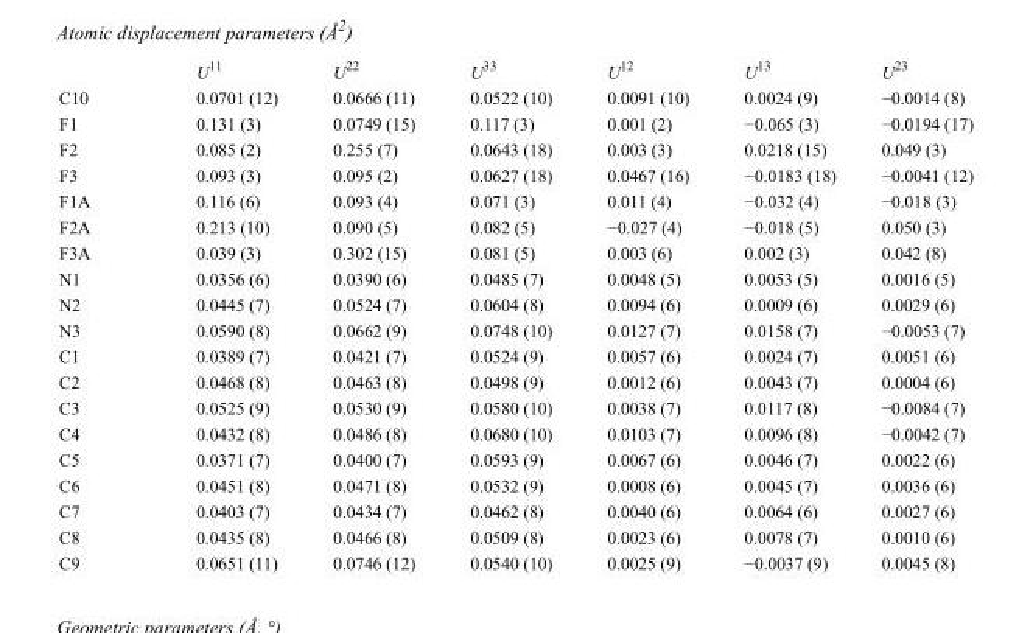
<table><thead><tr><td></td><td>U<sup>11</sup></td><td>U<sup>22</sup></td><td>U<sup>33</sup></td><td>U<sup>12</sup></td><td>U<sup>13</sup></td><td>U<sup>23</sup></td></tr></thead><tbody><tr><td>C10</td><td>0.0701 (12)</td><td>0.0666 (11)</td><td>0.0522 (10)</td><td>0.0091 (10)</td><td>0.0024 (9)</td><td>−0.0014 (8)</td></tr><tr><td>F1</td><td>0.131 (3)</td><td>0.0749 (15)</td><td>0.117 (3)</td><td>0.001 (2)</td><td>−0.065 (3)</td><td>−0.0194 (17)</td></tr><tr><td>F2</td><td>0.085 (2)</td><td>0.255 (7)</td><td>0.0643 (18)</td><td>0.003 (3)</td><td>0.0218 (15)</td><td>0.049 (3)</td></tr><tr><td>F3</td><td>0.093 (3)</td><td>0.095 (2)</td><td>0.0627 (18)</td><td>0.0467 (16)</td><td>−0.0183 (18)</td><td>−0.0041 (12)</td></tr><tr><td>F1A</td><td>0.116 (6)</td><td>0.093 (4)</td><td>0.071 (3)</td><td>0.011 (4)</td><td>−0.032 (4)</td><td>−0.018 (3)</td></tr><tr><td>F2A</td><td>0.213 (10)</td><td>0.090 (5)</td><td>0.082 (5)</td><td>−0.027 (4)</td><td>−0.018 (5)</td><td>0.050 (3)</td></tr><tr><td>F3A</td><td>0.039 (3)</td><td>0.302 (15)</td><td>0.081 (5)</td><td>0.003 (6)</td><td>0.002 (3)</td><td>0.042 (8)</td></tr><tr><td>N1</td><td>0.0356 (6)</td><td>0.0390 (6)</td><td>0.0485 (7)</td><td>0.0048 (5)</td><td>0.0053 (5)</td><td>0.0016 (5)</td></tr><tr><td>N2</td><td>0.0445 (7)</td><td>0.0524 (7)</td><td>0.0604 (8)</td><td>0.0094 (6)</td><td>0.0009 (6)</td><td>0.0029 (6)</td></tr><tr><td>N3</td><td>0.0590 (8)</td><td>0.0662 (9)</td><td>0.0748 (10)</td><td>0.0127 (7)</td><td>0.0158 (7)</td><td>−0.0053 (7)</td></tr><tr><td>C1</td><td>0.0389 (7)</td><td>0.0421 (7)</td><td>0.0524 (9)</td><td>0.0057 (6)</td><td>0.0024 (7)</td><td>0.0051 (6)</td></tr><tr><td>C2</td><td>0.0468 (8)</td><td>0.0463 (8)</td><td>0.0498 (9)</td><td>0.0012 (6)</td><td>0.0043 (7)</td><td>0.0004 (6)</td></tr><tr><td>C3</td><td>0.0525 (9)</td><td>0.0530 (9)</td><td>0.0580 (10)</td><td>0.0038 (7)</td><td>0.0117 (8)</td><td>−0.0084 (7)</td></tr><tr><td>C4</td><td>0.0432 (8)</td><td>0.0486 (8)</td><td>0.0680 (10)</td><td>0.0103 (7)</td><td>0.0096 (8)</td><td>−0.0042 (7)</td></tr><tr><td>C5</td><td>0.0371 (7)</td><td>0.0400 (7)</td><td>0.0593 (9)</td><td>0.0067 (6)</td><td>0.0046 (7)</td><td>0.0022 (6)</td></tr><tr><td>C6</td><td>0.0451 (8)</td><td>0.0471 (8)</td><td>0.0532 (9)</td><td>0.0008 (6)</td><td>0.0045 (7)</td><td>0.0036 (6)</td></tr><tr><td>C7</td><td>0.0403 (7)</td><td>0.0434 (7)</td><td>0.0462 (8)</td><td>0.0040 (6)</td><td>0.0064 (6)</td><td>0.0027 (6)</td></tr><tr><td>C8</td><td>0.0435 (8)</td><td>0.0466 (8)</td><td>0.0509 (8)</td><td>0.0023 (6)</td><td>0.0078 (7)</td><td>0.0010 (6)</td></tr><tr><td>C9</td><td>0.0651 (11)</td><td>0.0746 (12)</td><td>0.0540 (10)</td><td>0.0025 (9)</td><td>−0.0037 (9)</td><td>0.0045 (8)</td></tr></tbody></table>